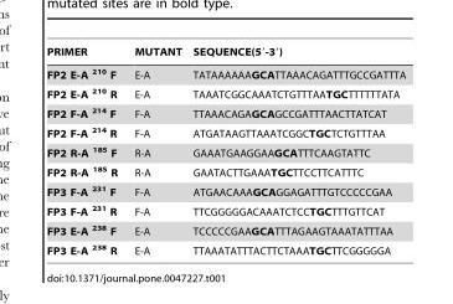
<table><thead><tr><td>PRIMER</td><td>MUTANT</td><td>SEQUENCE(5′-3′)</td></tr></thead><tbody><tr><td>FP2 E-A <sup>210</sup> F</td><td>E-A</td><td>TATAAAAAAGCATTAAACAGATTTGCCGATTTA</td></tr><tr><td>FP2 E-A <sup>210</sup> R</td><td>E-A</td><td>TAAATCGGCAAATCTGTTTAATGCTTTTTTATA</td></tr><tr><td>FP2 F-A <sup>214</sup> F</td><td>F-A</td><td>TTAAACAGAGCAGCCGATTTAACTTATCAT</td></tr><tr><td>FP2 F-A <sup>214</sup> R</td><td>F-A</td><td>ATGATAAGTTAAATCGGCTGCTCTGTTTAA</td></tr><tr><td>FP2 R-A <sup>185</sup> F</td><td>R-A</td><td>GAAATGAAGGAAGCATTTCAAGTATTC</td></tr><tr><td>FP2 R-A <sup>185</sup> R</td><td>R-A</td><td>GAATACTTGAAATGCTTCCTTCATTTC</td></tr><tr><td>FP3 F-A <sup>231</sup> F</td><td>F-A</td><td>ATGAACAAAGCAGGAGATTTGTCCCCCGAA</td></tr><tr><td>FP3 F-A <sup>231</sup> R</td><td>F-A</td><td>TTCGGGGGACAAATCTCCTGCTTTGTTCAT</td></tr><tr><td>FP3 E-A <sup>238</sup> F</td><td>E-A</td><td>TCCCCCGAAGCATTTAGAAGTAAATATTTAA</td></tr><tr><td>FP3 E-A <sup>238</sup> R</td><td>E-A</td><td>TTAAATATTTACTTCTAAATGCTTCGGGGGA</td></tr></tbody></table>